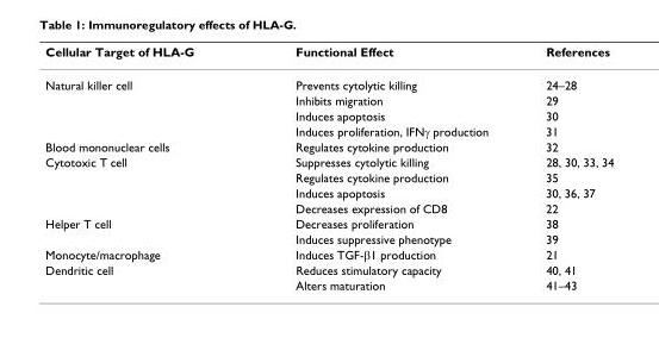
<table><thead><tr><td>Cellular Target of HLA-G</td><td>Functional Effect</td><td>References</td></tr></thead><tbody><tr><td rowspan="4">Natural killer cell</td><td>Prevents cytolytic killing</td><td>24–28</td></tr><tr><td>Inhibits migration</td><td>29</td></tr><tr><td>Induces apoptosis</td><td>30</td></tr><tr><td>Induces proliferation, IFNγ production</td><td>31</td></tr><tr><td>Blood mononuclear cells</td><td>Regulates cytokine production</td><td>32</td></tr><tr><td rowspan="4">Cytotoxic T cell</td><td>Suppresses cytolytic killing</td><td>28, 30, 33, 34</td></tr><tr><td>Regulates cytokine production</td><td>35</td></tr><tr><td>Induces apoptosis</td><td>30, 36, 37</td></tr><tr><td>Decreases expression of CD8</td><td>22</td></tr><tr><td rowspan="2">Helper T cell</td><td>Decreases proliferation</td><td>38</td></tr><tr><td>Induces suppressive phenotype</td><td>39</td></tr><tr><td>Monocyte/macrophage</td><td>Induces TGF-β1 production</td><td>21</td></tr><tr><td rowspan="2">Dendritic cell</td><td>Reduces stimulatory capacity</td><td>40, 41</td></tr><tr><td>Alters maturation</td><td>41–43</td></tr></tbody></table>